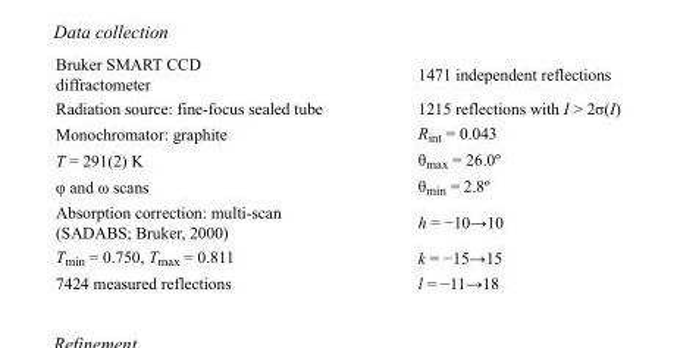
<table><tbody><tr><td>Bruker SMART CCD diffractometer</td><td>1471 independent reflections</td></tr><tr><td>Radiation source: fine-focus sealed tube</td><td>1215 reflections with I &gt; 2σ(I)</td></tr><tr><td>Monochromator: graphite</td><td>R<sub>int</sub> = 0.043</td></tr><tr><td>T = 291(2) K</td><td>θ<sub>max</sub> = 26.0º</td></tr><tr><td>φ and ω scans</td><td>θ<sub>min</sub> = 2.8º</td></tr><tr><td>Absorption correction: multi-scan (SADABS; Bruker, 2000)</td><td>h = −10→10</td></tr><tr><td>T<sub>min</sub> = 0.750, T<sub>max</sub> = 0.811</td><td>k = −15→15</td></tr><tr><td>7424 measured reflections</td><td>l = −11→18</td></tr></tbody></table>